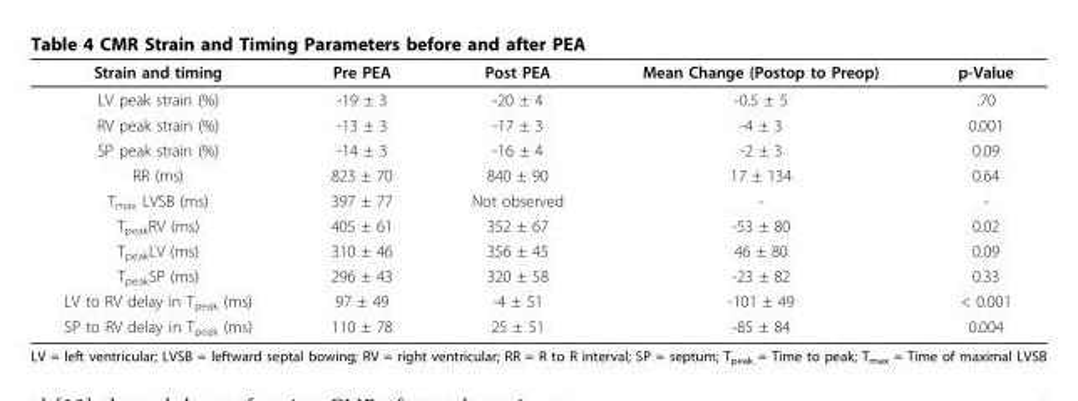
<table><thead><tr><td>Strain and timing</td><td>Pre PEA</td><td>Post PEA</td><td>Mean Change (Postop to Preop)</td><td>p-Value</td></tr></thead><tbody><tr><td>LV peak strain (%)</td><td>-19 ± 3</td><td>-20 ± 4</td><td>-0.5 ± 5</td><td>.70</td></tr><tr><td>RV peak strain (%)</td><td>-13 ± 3</td><td>-17 ± 3</td><td>-4 ± 3</td><td>0.001</td></tr><tr><td>SP peak strain (%)</td><td>-14 ± 3</td><td>-16 ± 4</td><td>-2 ± 3</td><td>0.09</td></tr><tr><td>RR (ms)</td><td>823 ± 70</td><td>840 ± 90</td><td>17 ± 134</td><td>0.64</td></tr><tr><td>T<sub>max</sub> LVSB (ms)</td><td>397 ± 77</td><td>Not observed</td><td>-</td><td>-</td></tr><tr><td>T<sub>peak</sub>RV (ms)</td><td>405 ± 61</td><td>352 ± 67</td><td>-53 ± 80</td><td>0.02</td></tr><tr><td>T<sub>peak</sub>LV (ms)</td><td>310 ± 46</td><td>356 ± 45</td><td>46 ± 80</td><td>0.09</td></tr><tr><td>T<sub>peak</sub>SP (ms)</td><td>296 ± 43</td><td>320 ± 58</td><td>-23 ± 82</td><td>0.33</td></tr><tr><td>LV to RV delay in T<sub>peak</sub> (ms)</td><td>97 ± 49</td><td>-4 ± 51</td><td>-101 ± 49</td><td>&lt; 0.001</td></tr><tr><td>SP to RV delay in T<sub>peak</sub> (ms)</td><td>110 ± 78</td><td>25 ± 51</td><td>-85 ± 84</td><td>0.004</td></tr></tbody></table>